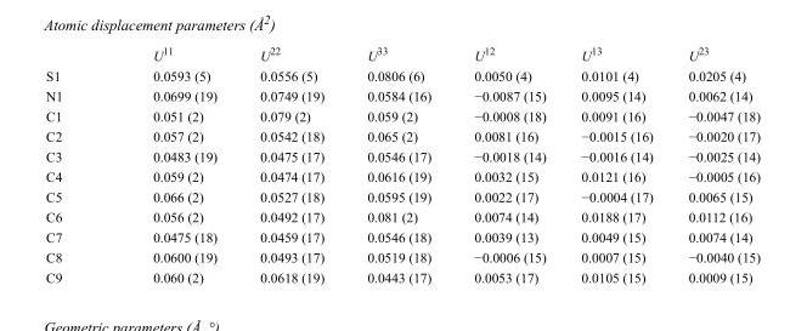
<table><thead><tr><td></td><td>U<sup>11</sup></td><td>U<sup>22</sup></td><td>U<sup>33</sup></td><td>U<sup>12</sup></td><td>U<sup>13</sup></td><td>U<sup>23</sup></td></tr></thead><tbody><tr><td>S1</td><td>0.0593 (5)</td><td>0.0556 (5)</td><td>0.0806 (6)</td><td>0.0050 (4)</td><td>0.0101 (4)</td><td>0.0205 (4)</td></tr><tr><td>N1</td><td>0.0699 (19)</td><td>0.0749 (19)</td><td>0.0584 (16)</td><td>−0.0087 (15)</td><td>0.0095 (14)</td><td>0.0062 (14)</td></tr><tr><td>C1</td><td>0.051 (2)</td><td>0.079 (2)</td><td>0.059 (2)</td><td>−0.0008 (18)</td><td>0.0091 (16)</td><td>−0.0047 (18)</td></tr><tr><td>C2</td><td>0.057 (2)</td><td>0.0542 (18)</td><td>0.065 (2)</td><td>0.0081 (16)</td><td>−0.0015 (16)</td><td>−0.0020 (17)</td></tr><tr><td>C3</td><td>0.0483 (19)</td><td>0.0475 (17)</td><td>0.0546 (17)</td><td>−0.0018 (14)</td><td>−0.0016 (14)</td><td>−0.0025 (14)</td></tr><tr><td>C4</td><td>0.059 (2)</td><td>0.0474 (17)</td><td>0.0616 (19)</td><td>0.0032 (15)</td><td>0.0121 (16)</td><td>−0.0005 (16)</td></tr><tr><td>C5</td><td>0.066 (2)</td><td>0.0527 (18)</td><td>0.0595 (19)</td><td>0.0022 (17)</td><td>−0.0004 (17)</td><td>0.0065 (15)</td></tr><tr><td>C6</td><td>0.056 (2)</td><td>0.0492 (17)</td><td>0.081 (2)</td><td>0.0074 (14)</td><td>0.0188 (17)</td><td>0.0112 (16)</td></tr><tr><td>C7</td><td>0.0475 (18)</td><td>0.0459 (17)</td><td>0.0546 (18)</td><td>0.0039 (13)</td><td>0.0049 (15)</td><td>0.0074 (14)</td></tr><tr><td>C8</td><td>0.0600 (19)</td><td>0.0493 (17)</td><td>0.0519 (18)</td><td>−0.0006 (15)</td><td>0.0007 (15)</td><td>−0.0040 (15)</td></tr><tr><td>C9</td><td>0.060 (2)</td><td>0.0618 (19)</td><td>0.0443 (17)</td><td>0.0053 (17)</td><td>0.0105 (15)</td><td>0.0009 (15)</td></tr></tbody></table>